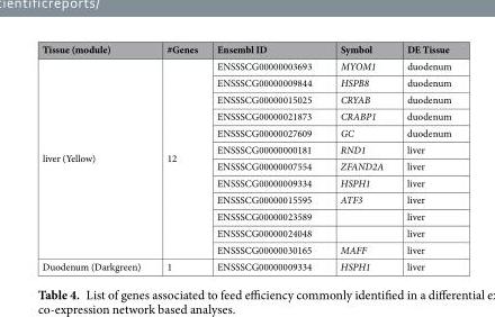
<table><thead><tr><td>Tissue (module)</td><td>#Genes</td><td>Ensembl ID</td><td>Symbol</td><td>DE Tissue</td></tr></thead><tbody><tr><td rowspan="12">liver (Yellow)</td><td rowspan="12">12</td><td>ENSSSCG00000003693</td><td>MYOM1</td><td>duodenum</td></tr><tr><td>ENSSSCG00000009844</td><td>HSPB8</td><td>duodenum</td></tr><tr><td>ENSSSCG00000015025</td><td>CRYAB</td><td>duodenum</td></tr><tr><td>ENSSSCG00000021873</td><td>CRABP1</td><td>duodenum</td></tr><tr><td>ENSSSCG00000027609</td><td>GC</td><td>duodenum</td></tr><tr><td>ENSSSCG00000000181</td><td>RND1</td><td>liver</td></tr><tr><td>ENSSSCG00000007554</td><td>ZFAND2A</td><td>liver</td></tr><tr><td>ENSSSCG00000009334</td><td>HSPH1</td><td>liver</td></tr><tr><td>ENSSSCG00000015595</td><td>ATF3</td><td>liver</td></tr><tr><td>ENSSSCG00000023589</td><td></td><td>liver</td></tr><tr><td>ENSSSCG00000024048</td><td></td><td>liver</td></tr><tr><td>ENSSSCG00000030165</td><td>MAFF</td><td>liver</td></tr><tr><td>Duodenum (Darkgreen)</td><td>1</td><td>ENSSSCG00000009334</td><td>HSPH1</td><td>liver</td></tr></tbody></table>